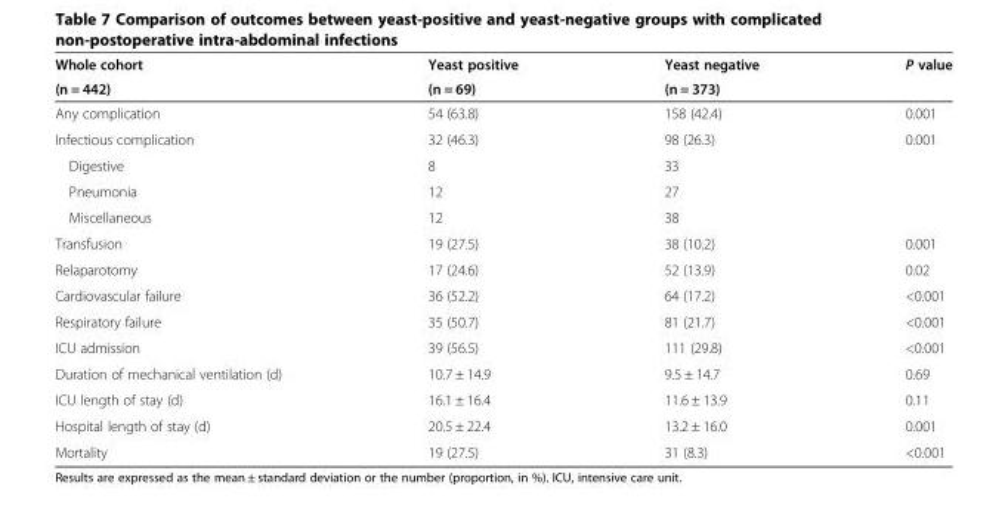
<table><thead><tr><td rowspan="2">Whole cohort (n = 442)</td><td rowspan="2">Yeast positive (n = 69)</td><td rowspan="2">Yeast negative (n = 373)</td><td rowspan="2">P value</td></tr><tr></tr></thead><tbody><tr><td>Any complication</td><td>54 (63.8)</td><td>158 (42.4)</td><td>0.001</td></tr><tr><td>Infectious complication</td><td>32 (46.3)</td><td>98 (26.3)</td><td>0.001</td></tr><tr><td>Digestive</td><td>8</td><td>33</td><td></td></tr><tr><td>Pneumonia</td><td>12</td><td>27</td><td></td></tr><tr><td>Miscellaneous</td><td>12</td><td>38</td><td></td></tr><tr><td>Transfusion</td><td>19 (27.5)</td><td>38 (10.2)</td><td>0.001</td></tr><tr><td>Relaparotomy</td><td>17 (24.6)</td><td>52 (13.9)</td><td>0.02</td></tr><tr><td>Cardiovascular failure</td><td>36 (52.2)</td><td>64 (17.2)</td><td>&lt;0.001</td></tr><tr><td>Respiratory failure</td><td>35 (50.7)</td><td>81 (21.7)</td><td>&lt;0.001</td></tr><tr><td>ICU admission</td><td>39 (56.5)</td><td>111 (29.8)</td><td>&lt;0.001</td></tr><tr><td>Duration of mechanical ventilation (d)</td><td>10.7 ± 14.9</td><td>9.5 ± 14.7</td><td>0.69</td></tr><tr><td>ICU length of stay (d)</td><td>16.1 ± 16.4</td><td>11.6 ± 13.9</td><td>0.11</td></tr><tr><td>Hospital length of stay (d)</td><td>20.5 ± 22.4</td><td>13.2 ± 16.0</td><td>0.001</td></tr><tr><td>Mortality</td><td>19 (27.5)</td><td>31 (8.3)</td><td>&lt;0.001</td></tr></tbody></table>